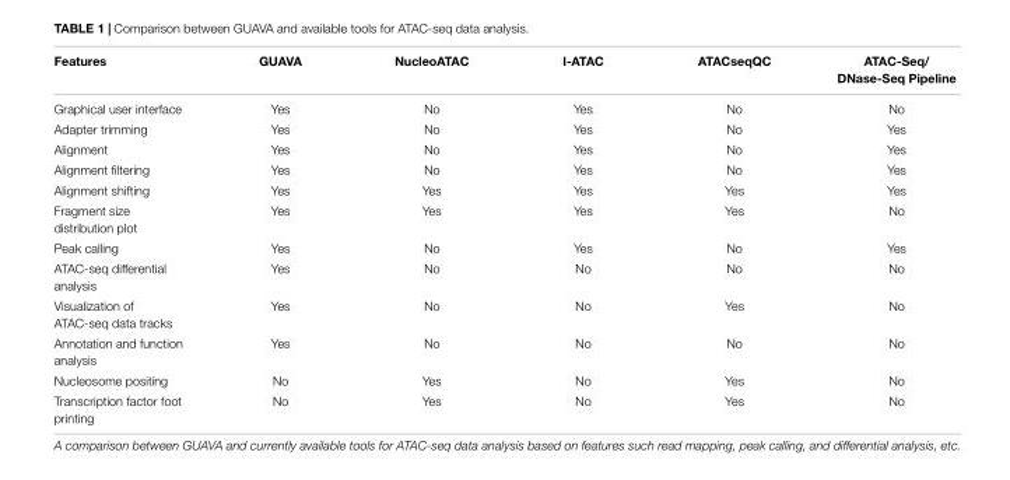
<table><thead><tr><td>Features</td><td>GUAVA</td><td>NucleoATAC</td><td>I-ATAC</td><td>ATACseqQC</td><td>ATAC-Seq/ DNase-Seq Pipeline</td></tr></thead><tbody><tr><td>Graphical user interface</td><td>Yes</td><td>No</td><td>Yes</td><td>No</td><td>No</td></tr><tr><td>Adapter trimming</td><td>Yes</td><td>No</td><td>Yes</td><td>No</td><td>Yes</td></tr><tr><td>Alignment</td><td>Yes</td><td>No</td><td>Yes</td><td>No</td><td>Yes</td></tr><tr><td>Alignment filtering</td><td>Yes</td><td>No</td><td>Yes</td><td>No</td><td>Yes</td></tr><tr><td>Alignment shifting</td><td>Yes</td><td>Yes</td><td>Yes</td><td>Yes</td><td>Yes</td></tr><tr><td>Fragment size distribution plot</td><td>Yes</td><td>Yes</td><td>Yes</td><td>Yes</td><td>No</td></tr><tr><td>Peak calling</td><td>Yes</td><td>No</td><td>Yes</td><td>No</td><td>Yes</td></tr><tr><td>ATAC-seq differential analysis</td><td>Yes</td><td>No</td><td>No</td><td>No</td><td>No</td></tr><tr><td>Visualization of ATAC-seq data tracks</td><td>Yes</td><td>No</td><td>No</td><td>Yes</td><td>No</td></tr><tr><td>Annotation and function analysis</td><td>Yes</td><td>No</td><td>No</td><td>No</td><td>No</td></tr><tr><td>Nucleosome positing</td><td>No</td><td>Yes</td><td>No</td><td>Yes</td><td>No</td></tr><tr><td>Transcription factor foot printing</td><td>No</td><td>Yes</td><td>No</td><td>Yes</td><td>No</td></tr></tbody></table>